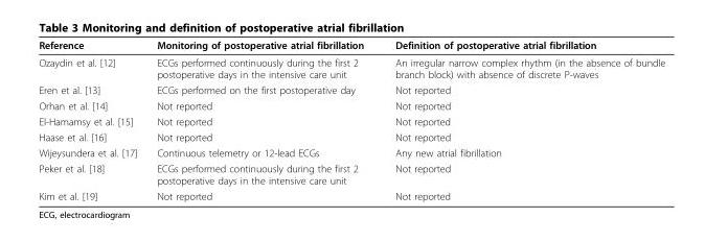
<table><thead><tr><td>Reference</td><td>Monitoring of postoperative atrial fibrillation</td><td>Definition of postoperative atrial fibrillation</td></tr></thead><tbody><tr><td>Ozaydin et al. [12]</td><td>ECGs performed continuously during the first 2 postoperative days in the intensive care unit</td><td>An irregular narrow complex rhythm (in the absence of bundle branch block) with absence of discrete P-waves</td></tr><tr><td>Eren et al. [13]</td><td>ECGs performed on the first postoperative day</td><td>Not reported</td></tr><tr><td>Orhan et al. [14]</td><td>Not reported</td><td>Not reported</td></tr><tr><td>El-Hamamsy et al. [15]</td><td>Not reported</td><td>Not reported</td></tr><tr><td>Haase et al. [16]</td><td>Not reported</td><td>Not reported</td></tr><tr><td>Wijeysundera et al. [17]</td><td>Continuous telemetry or 12-lead ECGs</td><td>Any new atrial fibrillation</td></tr><tr><td>Peker et al. [18]</td><td>ECGs performed continuously during the first 2 postoperative days in the intensive care unit</td><td>Not reported</td></tr><tr><td>Kim et al. [19]</td><td>Not reported</td><td>Not reported</td></tr></tbody></table>